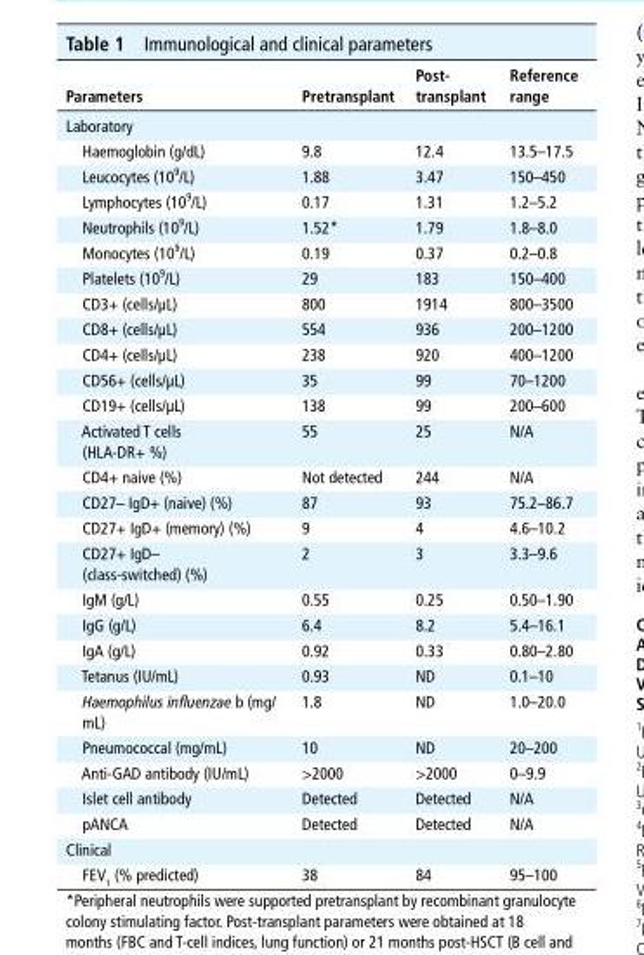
<table><thead><tr><td>Parameters</td><td>Pretransplant</td><td>Post- transplant</td><td>Reference range</td></tr></thead><tbody><tr><td colspan="4">Laboratory</td></tr><tr><td>Haemoglobin (g/dL)</td><td>9.8</td><td>12.4</td><td>13.5–17.5</td></tr><tr><td>Leucocytes (10<sup>9</sup>/L)</td><td>1.88</td><td>3.47</td><td>150–450</td></tr><tr><td>Lymphocytes (10<sup>9</sup>/L)</td><td>0.17</td><td>1.31</td><td>1.2–5.2</td></tr><tr><td>Neutrophils (10<sup>9</sup>/L)</td><td>1.52*</td><td>1.79</td><td>1.8–8.0</td></tr><tr><td>Monocytes (10<sup>9</sup>/L)</td><td>0.19</td><td>0.37</td><td>0.2–0.8</td></tr><tr><td>Platelets (10<sup>9</sup>/L)</td><td>29</td><td>183</td><td>150–400</td></tr><tr><td>CD3+ (cells/µL)</td><td>800</td><td>1914</td><td>800–3500</td></tr><tr><td>CD8+ (cells/µL)</td><td>554</td><td>936</td><td>200–1200</td></tr><tr><td>CD4+ (cells/µL)</td><td>238</td><td>920</td><td>400–1200</td></tr><tr><td>CD56+ (cells/µL)</td><td>35</td><td>99</td><td>70–1200</td></tr><tr><td>CD19+ (cells/µL)</td><td>138</td><td>99</td><td>200–600</td></tr><tr><td>Activated T cells (HLA-DR+ %)</td><td>55</td><td>25</td><td>N/A</td></tr><tr><td>CD4+ naive (%)</td><td>Not detected</td><td>244</td><td>N/A</td></tr><tr><td>CD27– IgD+ (naive) (%)</td><td>87</td><td>93</td><td>75.2–86.7</td></tr><tr><td>CD27+ IgD+ (memory) (%)</td><td>9</td><td>4</td><td>4.6–10.2</td></tr><tr><td>CD27+ IgD– (class-switched) (%)</td><td>2</td><td>3</td><td>3.3–9.6</td></tr><tr><td>IgM (g/L)</td><td>0.55</td><td>0.25</td><td>0.50–1.90</td></tr><tr><td>IgG (g/L)</td><td>6.4</td><td>8.2</td><td>5.4–16.1</td></tr><tr><td>IgA (g/L)</td><td>0.92</td><td>0.33</td><td>0.80–2.80</td></tr><tr><td>Tetanus (IU/mL)</td><td>0.93</td><td>ND</td><td>0.1–10</td></tr><tr><td>Haemophilus influenzae b (mg/ mL)</td><td>1.8</td><td>ND</td><td>1.0–20.0</td></tr><tr><td>Pneumococcal (mg/mL)</td><td>10</td><td>ND</td><td>20–200</td></tr><tr><td>Anti-GAD antibody (IU/mL)</td><td>&gt;2000</td><td>&gt;2000</td><td>0–9.9</td></tr><tr><td>Islet cell antibody</td><td>Detected</td><td>Detected</td><td>N/A</td></tr><tr><td>pANCA</td><td>Detected</td><td>Detected</td><td>N/A</td></tr><tr><td colspan="4">Clinical</td></tr><tr><td>FEV<sub>1</sub> (% predicted)</td><td>38</td><td>84</td><td>95–100</td></tr></tbody></table>